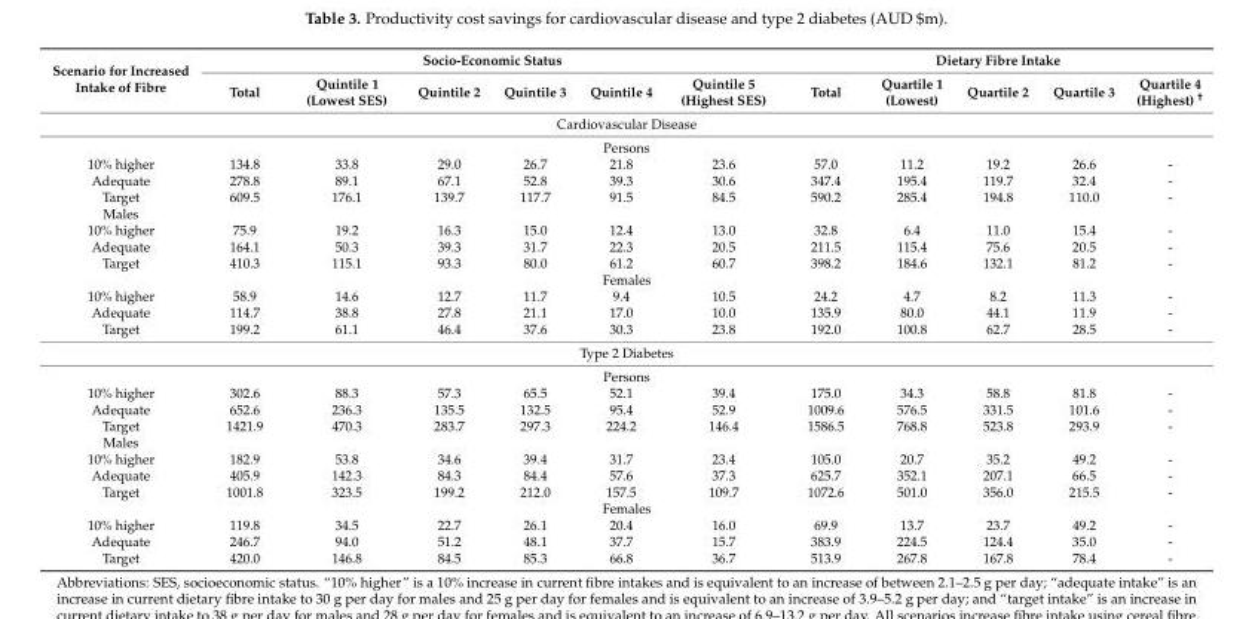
<table><thead><tr><td rowspan="2">Scenario for Increased Intake of Fibre</td><td colspan="6">Socio-Economic Status</td><td colspan="5">Dietary Fibre Intake</td></tr><tr><td>Total</td><td>Quintile 1 (Lowest SES)</td><td>Quintile 2</td><td>Quintile 3</td><td>Quintile 4</td><td>Quintile 5 (Highest SES)</td><td>Total</td><td>Quartile 1 (Lowest)</td><td>Quartile 2</td><td>Quartile 3</td><td>Quartile 4 (Highest) <sup>†</sup></td></tr></thead><tbody><tr><td colspan="12">Cardiovascular Disease</td></tr><tr><td colspan="12">Persons</td></tr><tr><td>10% higher</td><td>134.8</td><td>33.8</td><td>29.0</td><td>26.7</td><td>21.8</td><td>23.6</td><td>57.0</td><td>11.2</td><td>19.2</td><td>26.6</td><td>-</td></tr><tr><td>Adequate</td><td>278.8</td><td>89.1</td><td>67.1</td><td>52.8</td><td>39.3</td><td>30.6</td><td>347.4</td><td>195.4</td><td>119.7</td><td>32.4</td><td>-</td></tr><tr><td>Target</td><td>609.5</td><td>176.1</td><td>139.7</td><td>117.7</td><td>91.5</td><td>84.5</td><td>590.2</td><td>285.4</td><td>194.8</td><td>110.0</td><td>-</td></tr><tr><td colspan="12">Males</td></tr><tr><td>10% higher</td><td>75.9</td><td>19.2</td><td>16.3</td><td>15.0</td><td>12.4</td><td>13.0</td><td>32.8</td><td>6.4</td><td>11.0</td><td>15.4</td><td>-</td></tr><tr><td>Adequate</td><td>164.1</td><td>50.3</td><td>39.3</td><td>31.7</td><td>22.3</td><td>20.5</td><td>211.5</td><td>115.4</td><td>75.6</td><td>20.5</td><td>-</td></tr><tr><td>Target</td><td>410.3</td><td>115.1</td><td>93.3</td><td>80.0</td><td>61.2</td><td>60.7</td><td>398.2</td><td>184.6</td><td>132.1</td><td>81.2</td><td>-</td></tr><tr><td colspan="12">Females</td></tr><tr><td>10% higher</td><td>58.9</td><td>14.6</td><td>12.7</td><td>11.7</td><td>9.4</td><td>10.5</td><td>24.2</td><td>4.7</td><td>8.2</td><td>11.3</td><td>-</td></tr><tr><td>Adequate</td><td>114.7</td><td>38.8</td><td>27.8</td><td>21.1</td><td>17.0</td><td>10.0</td><td>135.9</td><td>80.0</td><td>44.1</td><td>11.9</td><td>-</td></tr><tr><td>Target</td><td>199.2</td><td>61.1</td><td>46.4</td><td>37.6</td><td>30.3</td><td>23.8</td><td>192.0</td><td>100.8</td><td>62.7</td><td>28.5</td><td>-</td></tr><tr><td colspan="12">Type 2 Diabetes</td></tr><tr><td colspan="12">Persons</td></tr><tr><td>10% higher</td><td>302.6</td><td>88.3</td><td>57.3</td><td>65.5</td><td>52.1</td><td>39.4</td><td>175.0</td><td>34.3</td><td>58.8</td><td>81.8</td><td>-</td></tr><tr><td>Adequate</td><td>652.6</td><td>236.3</td><td>135.5</td><td>132.5</td><td>95.4</td><td>52.9</td><td>1009.6</td><td>576.5</td><td>331.5</td><td>101.6</td><td>-</td></tr><tr><td>Target</td><td>1421.9</td><td>470.3</td><td>283.7</td><td>297.3</td><td>224.2</td><td>146.4</td><td>1586.5</td><td>768.8</td><td>523.8</td><td>293.9</td><td>-</td></tr><tr><td colspan="12">Males</td></tr><tr><td>10% higher</td><td>182.9</td><td>53.8</td><td>34.6</td><td>39.4</td><td>31.7</td><td>23.4</td><td>105.0</td><td>20.7</td><td>35.2</td><td>49.2</td><td>-</td></tr><tr><td>Adequate</td><td>405.9</td><td>142.3</td><td>84.3</td><td>84.4</td><td>57.6</td><td>37.3</td><td>625.7</td><td>352.1</td><td>207.1</td><td>66.5</td><td>-</td></tr><tr><td>Target</td><td>1001.8</td><td>323.5</td><td>199.2</td><td>212.0</td><td>157.5</td><td>109.7</td><td>1072.6</td><td>501.0</td><td>356.0</td><td>215.5</td><td>-</td></tr><tr><td colspan="12">Females</td></tr><tr><td>10% higher</td><td>119.8</td><td>34.5</td><td>22.7</td><td>26.1</td><td>20.4</td><td>16.0</td><td>69.9</td><td>13.7</td><td>23.7</td><td>49.2</td><td>-</td></tr><tr><td>Adequate</td><td>246.7</td><td>94.0</td><td>51.2</td><td>48.1</td><td>37.7</td><td>15.7</td><td>383.9</td><td>224.5</td><td>124.4</td><td>35.0</td><td>-</td></tr><tr><td>Target</td><td>420.0</td><td>146.8</td><td>84.5</td><td>85.3</td><td>66.8</td><td>36.7</td><td>513.9</td><td>267.8</td><td>167.8</td><td>78.4</td><td>-</td></tr></tbody></table>